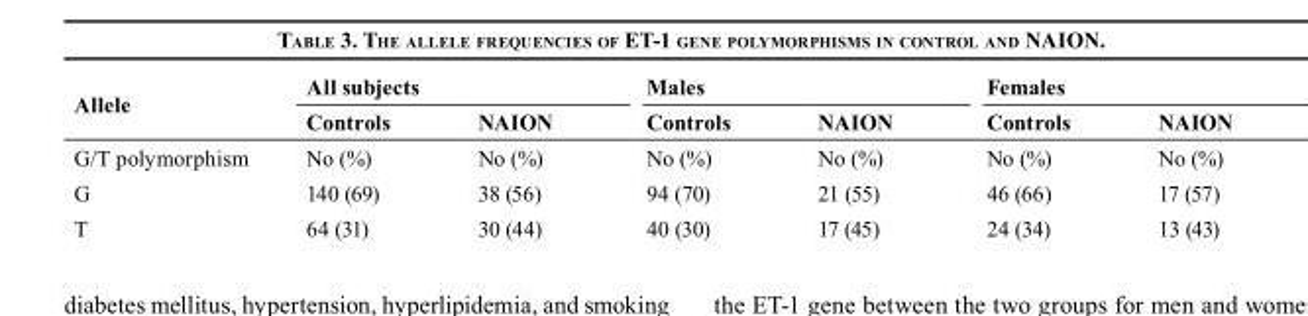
<table><thead><tr><td rowspan="2">Allele</td><td colspan="2">All subjects</td><td colspan="2">Males</td><td colspan="2">Females</td></tr><tr><td>Controls</td><td>NAION</td><td>Controls</td><td>NAION</td><td>Controls</td><td>NAION</td></tr></thead><tbody><tr><td>G/T polymorphism</td><td>No (%)</td><td>No (%)</td><td>No (%)</td><td>No (%)</td><td>No (%)</td><td>No (%)</td></tr><tr><td>G</td><td>140 (69)</td><td>38 (56)</td><td>94 (70)</td><td>21 (55)</td><td>46 (66)</td><td>17 (57)</td></tr><tr><td>T</td><td>64 (31)</td><td>30 (44)</td><td>40 (30)</td><td>17 (45)</td><td>24 (34)</td><td>13 (43)</td></tr></tbody></table>